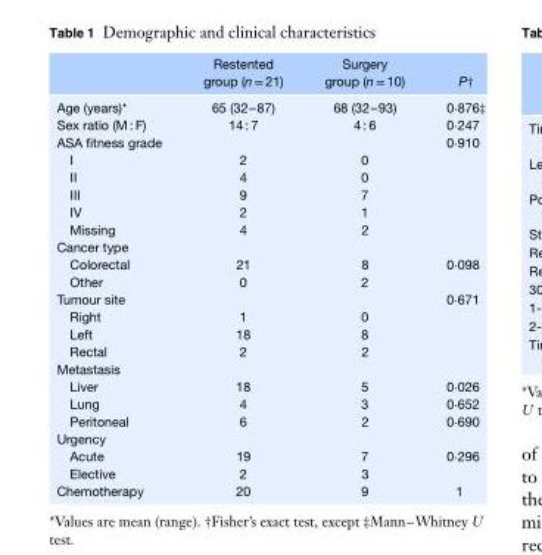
<table><thead><tr><td></td><td>Restented group (n = 21)</td><td>Surgery group (n = 10)</td><td>P†</td></tr></thead><tbody><tr><td>Age (years)*</td><td>65 (32–87)</td><td>68 (32–93)</td><td>0⋅876‡</td></tr><tr><td>Sex ratio (M : F)</td><td>14 : 7</td><td>4 : 6</td><td>0⋅247</td></tr><tr><td>ASA fitness grade</td><td></td><td></td><td>0⋅910</td></tr><tr><td>I</td><td>2</td><td>0</td><td></td></tr><tr><td>II</td><td>4</td><td>0</td><td></td></tr><tr><td>III</td><td>9</td><td>7</td><td></td></tr><tr><td>IV</td><td>2</td><td>1</td><td></td></tr><tr><td>Missing</td><td>4</td><td>2</td><td></td></tr><tr><td colspan="4">Cancer type</td></tr><tr><td>Colorectal</td><td>21</td><td>8</td><td>0⋅098</td></tr><tr><td>Other</td><td>0</td><td>2</td><td></td></tr><tr><td>Tumour site</td><td></td><td></td><td>0⋅671</td></tr><tr><td>Right</td><td>1</td><td>0</td><td></td></tr><tr><td>Left</td><td>18</td><td>8</td><td></td></tr><tr><td>Rectal</td><td>2</td><td>2</td><td></td></tr><tr><td colspan="4">Metastasis</td></tr><tr><td>Liver</td><td>18</td><td>5</td><td>0⋅026</td></tr><tr><td>Lung</td><td>4</td><td>3</td><td>0⋅652</td></tr><tr><td>Peritoneal</td><td>6</td><td>2</td><td>0⋅690</td></tr><tr><td colspan="4">Urgency</td></tr><tr><td>Acute</td><td>19</td><td>7</td><td>0⋅296</td></tr><tr><td>Elective</td><td>2</td><td>3</td><td></td></tr><tr><td>Chemotherapy</td><td>20</td><td>9</td><td>1</td></tr></tbody></table>